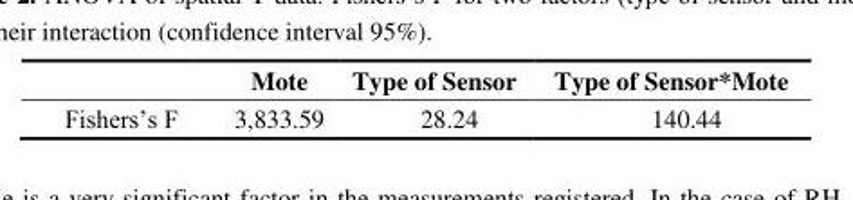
<table><thead><tr><td></td><td>Mote</td><td>Type of Sensor</td><td>Type of Sensor*Mote</td></tr></thead><tbody><tr><td>Fishers‟s F</td><td>3,833.59</td><td>28.24</td><td>140.44</td></tr></tbody></table>